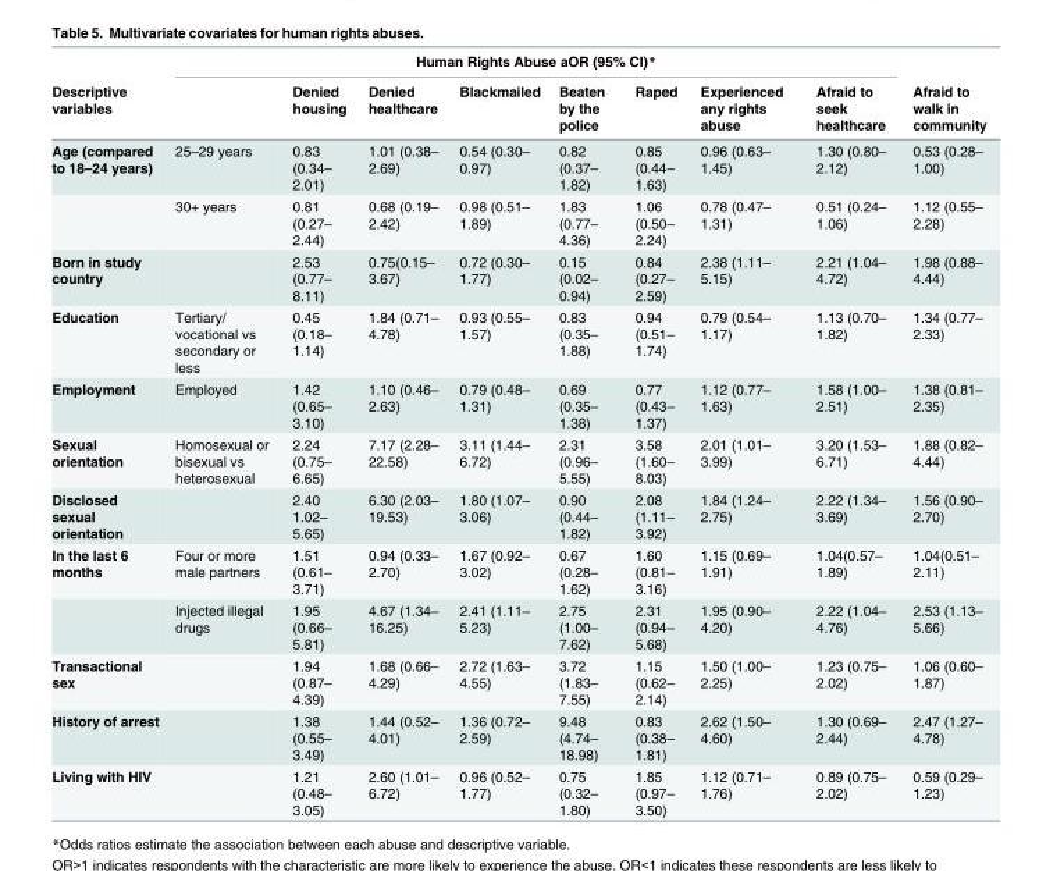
<table><thead><tr><td rowspan="2">Descriptive variables</td><td colspan="8">Human Rights Abuse aOR (95% CI)*</td><td rowspan="2">Afraid to walk in community</td></tr><tr><td></td><td>Denied housing</td><td>Denied healthcare</td><td>Blackmailed</td><td>Beaten by the police</td><td>Raped</td><td>Experienced any rights abuse</td><td>Afraid to seek healthcare</td></tr></thead><tbody><tr><td rowspan="2">Age (compared to 18–24 years)</td><td>25–29 years</td><td>0.83 (0.34– 2.01)</td><td>1.01 (0.38– 2.69)</td><td>0.54 (0.30– 0.97)</td><td>0.82 (0.37– 1.82)</td><td>0.85 (0.44– 1.63)</td><td>0.96 (0.63– 1.45)</td><td>1.30 (0.80– 2.12)</td><td>0.53 (0.28– 1.00)</td></tr><tr><td>30+ years</td><td>0.81 (0.27– 2.44)</td><td>0.68 (0.19– 2.42)</td><td>0.98 (0.51– 1.89)</td><td>1.83 (0.77– 4.36)</td><td>1.06 (0.50– 2.24)</td><td>0.78 (0.47– 1.31)</td><td>0.51 (0.24– 1.06)</td><td>1.12 (0.55– 2.28)</td></tr><tr><td>Born in study country</td><td></td><td>2.53 (0.77– 8.11)</td><td>0.75(0.15– 3.67)</td><td>0.72 (0.30– 1.77)</td><td>0.15 (0.02– 0.94)</td><td>0.84 (0.27– 2.59)</td><td>2.38 (1.11– 5.15)</td><td>2.21 (1.04– 4.72)</td><td>1.98 (0.88– 4.44)</td></tr><tr><td>Education</td><td>Tertiary/ vocational vs secondary or less</td><td>0.45 (0.18– 1.14)</td><td>1.84 (0.71– 4.78)</td><td>0.93 (0.55– 1.57)</td><td>0.83 (0.35– 1.88)</td><td>0.94 (0.51– 1.74)</td><td>0.79 (0.54– 1.17)</td><td>1.13 (0.70– 1.82)</td><td>1.34 (0.77– 2.33)</td></tr><tr><td>Employment</td><td>Employed</td><td>1.42 (0.65– 3.10)</td><td>1.10 (0.46– 2.63)</td><td>0.79 (0.48– 1.31)</td><td>0.69 (0.35– 1.38)</td><td>0.77 (0.43– 1.37)</td><td>1.12 (0.77– 1.63)</td><td>1.58 (1.00– 2.51)</td><td>1.38 (0.81– 2.35)</td></tr><tr><td>Sexual orientation</td><td>Homosexual or bisexual vs heterosexual</td><td>2.24 (0.75– 6.65)</td><td>7.17 (2.28– 22.58)</td><td>3.11 (1.44– 6.72)</td><td>2.31 (0.96– 5.55)</td><td>3.58 (1.60– 8.03)</td><td>2.01 (1.01– 3.99)</td><td>3.20 (1.53– 6.71)</td><td>1.88 (0.82– 4.44)</td></tr><tr><td>Disclosed sexual orientation</td><td></td><td>2.40 1.02– 5.65)</td><td>6.30 (2.03– 19.53)</td><td>1.80 (1.07– 3.06)</td><td>0.90 (0.44– 1.82)</td><td>2.08 (1.11– 3.92)</td><td>1.84 (1.24– 2.75)</td><td>2.22 (1.34– 3.69)</td><td>1.56 (0.90– 2.70)</td></tr><tr><td rowspan="2">In the last 6 months</td><td>Four or more male partners</td><td>1.51 (0.61– 3.71)</td><td>0.94 (0.33– 2.70)</td><td>1.67 (0.92– 3.02)</td><td>0.67 (0.28– 1.62)</td><td>1.60 (0.81– 3.16)</td><td>1.15 (0.69– 1.91)</td><td>1.04(0.57– 1.89)</td><td>1.04(0.51– 2.11)</td></tr><tr><td>Injected illegal drugs</td><td>1.95 (0.66– 5.81)</td><td>4.67 (1.34– 16.25)</td><td>2.41 (1.11– 5.23)</td><td>2.75 (1.00– 7.62)</td><td>2.31 (0.94– 5.68)</td><td>1.95 (0.90– 4.20)</td><td>2.22 (1.04– 4.76)</td><td>2.53 (1.13– 5.66)</td></tr><tr><td>Transactional sex</td><td></td><td>1.94 (0.87– 4.39)</td><td>1.68 (0.66– 4.29)</td><td>2.72 (1.63– 4.55)</td><td>3.72 (1.83– 7.55)</td><td>1.15 (0.62– 2.14)</td><td>1.50 (1.00– 2.25)</td><td>1.23 (0.75– 2.02)</td><td>1.06 (0.60– 1.87)</td></tr><tr><td>History of arrest</td><td></td><td>1.38 (0.55– 3.49)</td><td>1.44 (0.52– 4.01)</td><td>1.36 (0.72– 2.59)</td><td>9.48 (4.74– 18.98)</td><td>0.83 (0.38– 1.81)</td><td>2.62 (1.50– 4.60)</td><td>1.30 (0.69– 2.44)</td><td>2.47 (1.27– 4.78)</td></tr><tr><td>Living with HIV</td><td></td><td>1.21 (0.48– 3.05)</td><td>2.60 (1.01– 6.72)</td><td>0.96 (0.52– 1.77)</td><td>0.75 (0.32– 1.80)</td><td>1.85 (0.97– 3.50)</td><td>1.12 (0.71– 1.76)</td><td>0.89 (0.75– 2.02)</td><td>0.59 (0.29– 1.23)</td></tr></tbody></table>